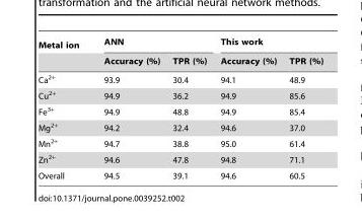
<table><thead><tr><td rowspan="2">Metal ion</td><td colspan="2">ANN</td><td colspan="2">This work</td></tr><tr><td>Accuracy (%)</td><td>TPR (%)</td><td>Accuracy (%)</td><td>TPR (%)</td></tr></thead><tbody><tr><td>Ca<sup>2+</sup></td><td>93.9</td><td>30.4</td><td>94.1</td><td>48.9</td></tr><tr><td>Cu<sup>2+</sup></td><td>94.9</td><td>36.2</td><td>94.9</td><td>85.6</td></tr><tr><td>Fe<sup>3+</sup></td><td>94.9</td><td>48.8</td><td>94.9</td><td>85.4</td></tr><tr><td>Mg<sup>2+</sup></td><td>94.2</td><td>32.4</td><td>94.6</td><td>37.0</td></tr><tr><td>Mn<sup>2+</sup></td><td>94.7</td><td>38.8</td><td>95.0</td><td>61.4</td></tr><tr><td>Zn<sup>2+</sup></td><td>94.6</td><td>47.8</td><td>94.8</td><td>71.1</td></tr><tr><td>Overall</td><td>94.5</td><td>39.1</td><td>94.6</td><td>60.5</td></tr></tbody></table>